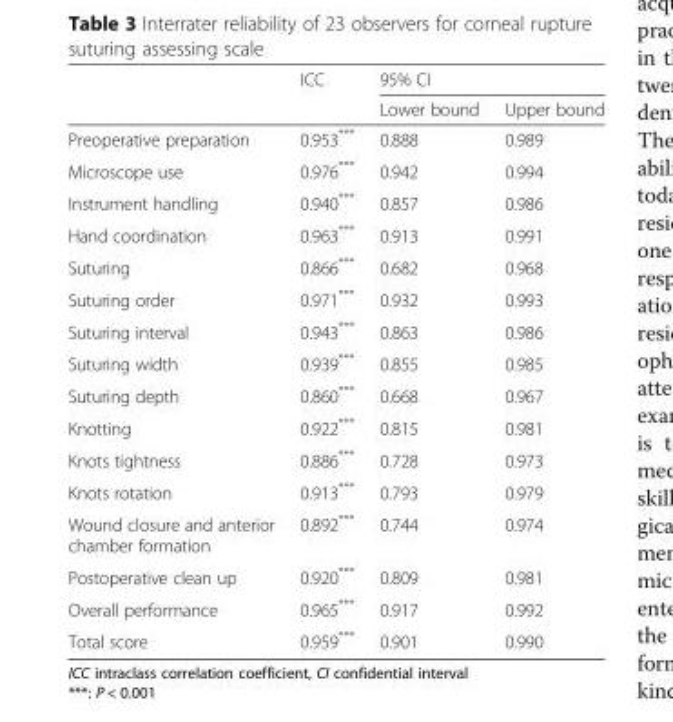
<table><thead><tr><td rowspan="2"></td><td rowspan="2">ICC</td><td colspan="2">95% CI</td></tr><tr><td>Lower bound</td><td>Upper bound</td></tr></thead><tbody><tr><td>Preoperative preparation</td><td>0.953***</td><td>0.888</td><td>0.989</td></tr><tr><td>Microscope use</td><td>0.976***</td><td>0.942</td><td>0.994</td></tr><tr><td>Instrument handling</td><td>0.940***</td><td>0.857</td><td>0.986</td></tr><tr><td>Hand coordination</td><td>0.963***</td><td>0.913</td><td>0.991</td></tr><tr><td>Suturing</td><td>0.866***</td><td>0.682</td><td>0.968</td></tr><tr><td>Suturing order</td><td>0.971***</td><td>0.932</td><td>0.993</td></tr><tr><td>Suturing interval</td><td>0.943***</td><td>0.863</td><td>0.986</td></tr><tr><td>Suturing width</td><td>0.939***</td><td>0.855</td><td>0.985</td></tr><tr><td>Suturing depth</td><td>0.860***</td><td>0.668</td><td>0.967</td></tr><tr><td>Knotting</td><td>0.922***</td><td>0.815</td><td>0.981</td></tr><tr><td>Knots tightness</td><td>0.886***</td><td>0.728</td><td>0.973</td></tr><tr><td>Knots rotation</td><td>0.913***</td><td>0.793</td><td>0.979</td></tr><tr><td>Wound closure and anterior chamber formation</td><td>0.892***</td><td>0.744</td><td>0.974</td></tr><tr><td>Postoperative clean up</td><td>0.920***</td><td>0.809</td><td>0.981</td></tr><tr><td>Overall performance</td><td>0.965***</td><td>0.917</td><td>0.992</td></tr><tr><td>Total score</td><td>0.959***</td><td>0.901</td><td>0.990</td></tr></tbody></table>